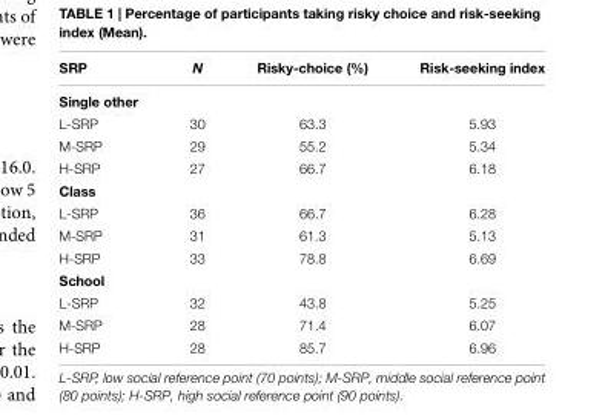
<table><thead><tr><td>SRP</td><td>N</td><td>Risky-choice (%)</td><td>Risk-seeking index</td></tr></thead><tbody><tr><td colspan="4">Single other</td></tr><tr><td>L-SRP</td><td>30</td><td>63.3</td><td>5.93</td></tr><tr><td>M-SRP</td><td>29</td><td>55.2</td><td>5.34</td></tr><tr><td>H-SRP</td><td>27</td><td>66.7</td><td>6.18</td></tr><tr><td colspan="4">Class</td></tr><tr><td>L-SRP</td><td>36</td><td>66.7</td><td>6.28</td></tr><tr><td>M-SRP</td><td>31</td><td>61.3</td><td>5.13</td></tr><tr><td>H-SRP</td><td>33</td><td>78.8</td><td>6.69</td></tr><tr><td colspan="4">School</td></tr><tr><td>L-SRP</td><td>32</td><td>43.8</td><td>5.25</td></tr><tr><td>M-SRP</td><td>28</td><td>71.4</td><td>6.07</td></tr><tr><td>H-SRP</td><td>28</td><td>85.7</td><td>6.96</td></tr></tbody></table>